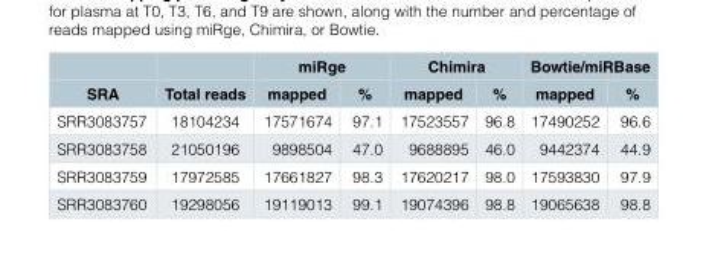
<table><thead><tr><td rowspan="2">SRA</td><td rowspan="2">Total reads</td><td colspan="2">miRge</td><td colspan="2">Chimira</td><td colspan="2">Bowtie/miRBase</td></tr><tr><td>mapped</td><td>%</td><td>mapped</td><td>%</td><td>mapped</td><td>%</td></tr></thead><tbody><tr><td>SRR3083757</td><td>18104234</td><td>17571674</td><td>97.1</td><td>17523557</td><td>96.8</td><td>17490252</td><td>96.6</td></tr><tr><td>SRR3083758</td><td>21050196</td><td>9898504</td><td>47.0</td><td>9688895</td><td>46.0</td><td>9442374</td><td>44.9</td></tr><tr><td>SRR3083759</td><td>17972585</td><td>17661827</td><td>98.3</td><td>17620217</td><td>98.0</td><td>17593830</td><td>97.9</td></tr><tr><td>SRR3083760</td><td>19298056</td><td>19119013</td><td>99.1</td><td>19074396</td><td>98.8</td><td>19065638</td><td>98.8</td></tr></tbody></table>